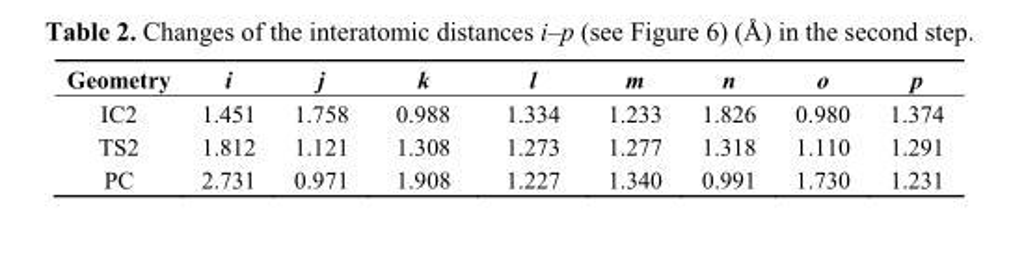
<table><thead><tr><td>Geometry</td><td>i</td><td>j</td><td>k</td><td>l</td><td>m</td><td>n</td><td>o</td><td>p</td></tr></thead><tbody><tr><td>IC2</td><td>1.451</td><td>1.758</td><td>0.988</td><td>1.334</td><td>1.233</td><td>1.826</td><td>0.980</td><td>1.374</td></tr><tr><td>TS2</td><td>1.812</td><td>1.121</td><td>1.308</td><td>1.273</td><td>1.277</td><td>1.318</td><td>1.110</td><td>1.291</td></tr><tr><td>PC</td><td>2.731</td><td>0.971</td><td>1.908</td><td>1.227</td><td>1.340</td><td>0.991</td><td>1.730</td><td>1.231</td></tr></tbody></table>